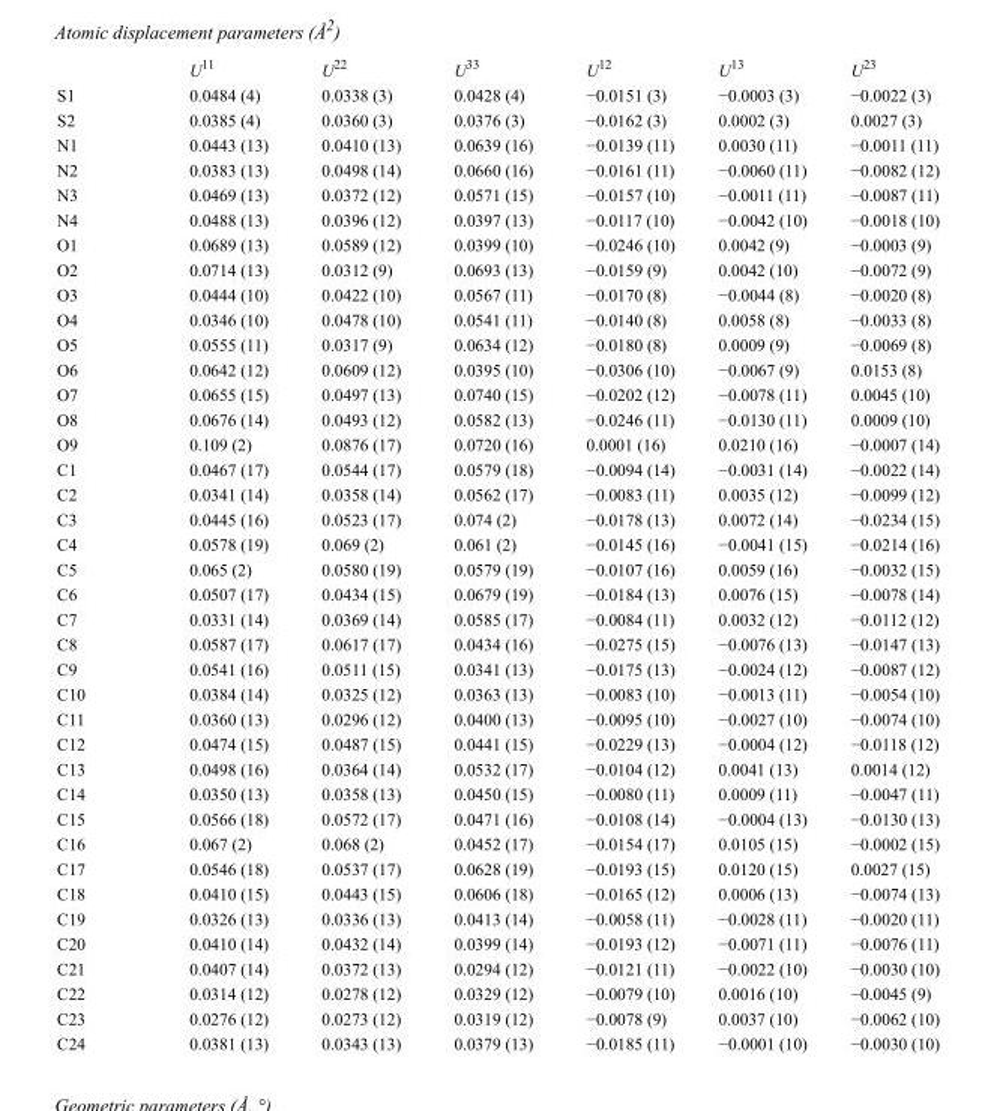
<table><thead><tr><td></td><td>U<sup>11</sup></td><td>U<sup>22</sup></td><td>U<sup>33</sup></td><td>U<sup>12</sup></td><td>U<sup>13</sup></td><td>U<sup>23</sup></td></tr></thead><tbody><tr><td>S1</td><td>0.0484 (4)</td><td>0.0338 (3)</td><td>0.0428 (4)</td><td>−0.0151 (3)</td><td>−0.0003 (3)</td><td>−0.0022 (3)</td></tr><tr><td>S2</td><td>0.0385 (4)</td><td>0.0360 (3)</td><td>0.0376 (3)</td><td>−0.0162 (3)</td><td>0.0002 (3)</td><td>0.0027 (3)</td></tr><tr><td>N1</td><td>0.0443 (13)</td><td>0.0410 (13)</td><td>0.0639 (16)</td><td>−0.0139 (11)</td><td>0.0030 (11)</td><td>−0.0011 (11)</td></tr><tr><td>N2</td><td>0.0383 (13)</td><td>0.0498 (14)</td><td>0.0660 (16)</td><td>−0.0161 (11)</td><td>−0.0060 (11)</td><td>−0.0082 (12)</td></tr><tr><td>N3</td><td>0.0469 (13)</td><td>0.0372 (12)</td><td>0.0571 (15)</td><td>−0.0157 (10)</td><td>−0.0011 (11)</td><td>−0.0087 (11)</td></tr><tr><td>N4</td><td>0.0488 (13)</td><td>0.0396 (12)</td><td>0.0397 (13)</td><td>−0.0117 (10)</td><td>−0.0042 (10)</td><td>−0.0018 (10)</td></tr><tr><td>O1</td><td>0.0689 (13)</td><td>0.0589 (12)</td><td>0.0399 (10)</td><td>−0.0246 (10)</td><td>0.0042 (9)</td><td>−0.0003 (9)</td></tr><tr><td>O2</td><td>0.0714 (13)</td><td>0.0312 (9)</td><td>0.0693 (13)</td><td>−0.0159 (9)</td><td>0.0042 (10)</td><td>−0.0072 (9)</td></tr><tr><td>O3</td><td>0.0444 (10)</td><td>0.0422 (10)</td><td>0.0567 (11)</td><td>−0.0170 (8)</td><td>−0.0044 (8)</td><td>−0.0020 (8)</td></tr><tr><td>O4</td><td>0.0346 (10)</td><td>0.0478 (10)</td><td>0.0541 (11)</td><td>−0.0140 (8)</td><td>0.0058 (8)</td><td>−0.0033 (8)</td></tr><tr><td>O5</td><td>0.0555 (11)</td><td>0.0317 (9)</td><td>0.0634 (12)</td><td>−0.0180 (8)</td><td>0.0009 (9)</td><td>−0.0069 (8)</td></tr><tr><td>O6</td><td>0.0642 (12)</td><td>0.0609 (12)</td><td>0.0395 (10)</td><td>−0.0306 (10)</td><td>−0.0067 (9)</td><td>0.0153 (8)</td></tr><tr><td>O7</td><td>0.0655 (15)</td><td>0.0497 (13)</td><td>0.0740 (15)</td><td>−0.0202 (12)</td><td>−0.0078 (11)</td><td>0.0045 (10)</td></tr><tr><td>O8</td><td>0.0676 (14)</td><td>0.0493 (12)</td><td>0.0582 (13)</td><td>−0.0246 (11)</td><td>−0.0130 (11)</td><td>0.0009 (10)</td></tr><tr><td>O9</td><td>0.109 (2)</td><td>0.0876 (17)</td><td>0.0720 (16)</td><td>0.0001 (16)</td><td>0.0210 (16)</td><td>−0.0007 (14)</td></tr><tr><td>C1</td><td>0.0467 (17)</td><td>0.0544 (17)</td><td>0.0579 (18)</td><td>−0.0094 (14)</td><td>−0.0031 (14)</td><td>−0.0022 (14)</td></tr><tr><td>C2</td><td>0.0341 (14)</td><td>0.0358 (14)</td><td>0.0562 (17)</td><td>−0.0083 (11)</td><td>0.0035 (12)</td><td>−0.0099 (12)</td></tr><tr><td>C3</td><td>0.0445 (16)</td><td>0.0523 (17)</td><td>0.074 (2)</td><td>−0.0178 (13)</td><td>0.0072 (14)</td><td>−0.0234 (15)</td></tr><tr><td>C4</td><td>0.0578 (19)</td><td>0.069 (2)</td><td>0.061 (2)</td><td>−0.0145 (16)</td><td>−0.0041 (15)</td><td>−0.0214 (16)</td></tr><tr><td>C5</td><td>0.065 (2)</td><td>0.0580 (19)</td><td>0.0579 (19)</td><td>−0.0107 (16)</td><td>0.0059 (16)</td><td>−0.0032 (15)</td></tr><tr><td>C6</td><td>0.0507 (17)</td><td>0.0434 (15)</td><td>0.0679 (19)</td><td>−0.0184 (13)</td><td>0.0076 (15)</td><td>−0.0078 (14)</td></tr><tr><td>C7</td><td>0.0331 (14)</td><td>0.0369 (14)</td><td>0.0585 (17)</td><td>−0.0084 (11)</td><td>0.0032 (12)</td><td>−0.0112 (12)</td></tr><tr><td>C8</td><td>0.0587 (17)</td><td>0.0617 (17)</td><td>0.0434 (16)</td><td>−0.0275 (15)</td><td>−0.0076 (13)</td><td>−0.0147 (13)</td></tr><tr><td>C9</td><td>0.0541 (16)</td><td>0.0511 (15)</td><td>0.0341 (13)</td><td>−0.0175 (13)</td><td>−0.0024 (12)</td><td>−0.0087 (12)</td></tr><tr><td>C10</td><td>0.0384 (14)</td><td>0.0325 (12)</td><td>0.0363 (13)</td><td>−0.0083 (10)</td><td>−0.0013 (11)</td><td>−0.0054 (10)</td></tr><tr><td>C11</td><td>0.0360 (13)</td><td>0.0296 (12)</td><td>0.0400 (13)</td><td>−0.0095 (10)</td><td>−0.0027 (10)</td><td>−0.0074 (10)</td></tr><tr><td>C12</td><td>0.0474 (15)</td><td>0.0487 (15)</td><td>0.0441 (15)</td><td>−0.0229 (13)</td><td>−0.0004 (12)</td><td>−0.0118 (12)</td></tr><tr><td>C13</td><td>0.0498 (16)</td><td>0.0364 (14)</td><td>0.0532 (17)</td><td>−0.0104 (12)</td><td>0.0041 (13)</td><td>0.0014 (12)</td></tr><tr><td>C14</td><td>0.0350 (13)</td><td>0.0358 (13)</td><td>0.0450 (15)</td><td>−0.0080 (11)</td><td>0.0009 (11)</td><td>−0.0047 (11)</td></tr><tr><td>C15</td><td>0.0566 (18)</td><td>0.0572 (17)</td><td>0.0471 (16)</td><td>−0.0108 (14)</td><td>−0.0004 (13)</td><td>−0.0130 (13)</td></tr><tr><td>C16</td><td>0.067 (2)</td><td>0.068 (2)</td><td>0.0452 (17)</td><td>−0.0154 (17)</td><td>0.0105 (15)</td><td>−0.0002 (15)</td></tr><tr><td>C17</td><td>0.0546 (18)</td><td>0.0537 (17)</td><td>0.0628 (19)</td><td>−0.0193 (15)</td><td>0.0120 (15)</td><td>0.0027 (15)</td></tr><tr><td>C18</td><td>0.0410 (15)</td><td>0.0443 (15)</td><td>0.0606 (18)</td><td>−0.0165 (12)</td><td>0.0006 (13)</td><td>−0.0074 (13)</td></tr><tr><td>C19</td><td>0.0326 (13)</td><td>0.0336 (13)</td><td>0.0413 (14)</td><td>−0.0058 (11)</td><td>−0.0028 (11)</td><td>−0.0020 (11)</td></tr><tr><td>C20</td><td>0.0410 (14)</td><td>0.0432 (14)</td><td>0.0399 (14)</td><td>−0.0193 (12)</td><td>−0.0071 (11)</td><td>−0.0076 (11)</td></tr><tr><td>C21</td><td>0.0407 (14)</td><td>0.0372 (13)</td><td>0.0294 (12)</td><td>−0.0121 (11)</td><td>−0.0022 (10)</td><td>−0.0030 (10)</td></tr><tr><td>C22</td><td>0.0314 (12)</td><td>0.0278 (12)</td><td>0.0329 (12)</td><td>−0.0079 (10)</td><td>0.0016 (10)</td><td>−0.0045 (9)</td></tr><tr><td>C23</td><td>0.0276 (12)</td><td>0.0273 (12)</td><td>0.0319 (12)</td><td>−0.0078 (9)</td><td>0.0037 (10)</td><td>−0.0062 (10)</td></tr><tr><td>C24</td><td>0.0381 (13)</td><td>0.0343 (13)</td><td>0.0379 (13)</td><td>−0.0185 (11)</td><td>−0.0001 (10)</td><td>−0.0030 (10)</td></tr></tbody></table>